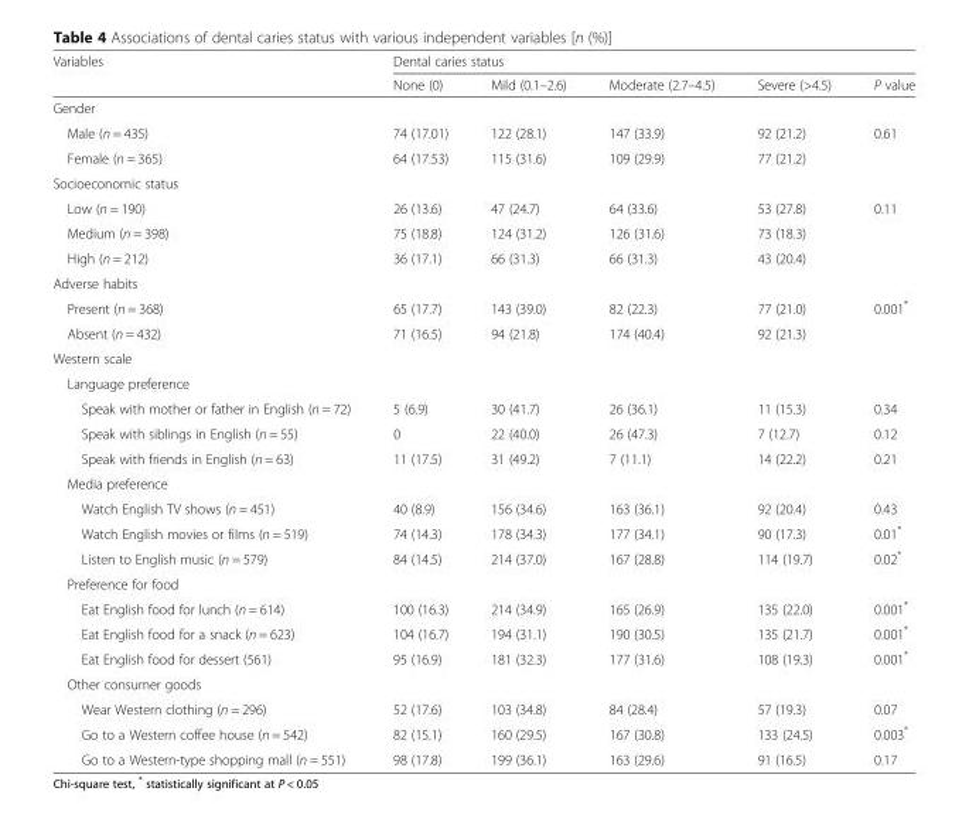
<table><thead><tr><td rowspan="2">Variables</td><td colspan="5">Dental caries status</td></tr><tr><td>None (0)</td><td>Mild (0.1–2.6)</td><td>Moderate (2.7–4.5)</td><td>Severe (&gt;4.5)</td><td>P value</td></tr></thead><tbody><tr><td colspan="6">Gender</td></tr><tr><td>Male (n = 435)</td><td>74 (17.01)</td><td>122 (28.1)</td><td>147 (33.9)</td><td>92 (21.2)</td><td rowspan="2">0.61</td></tr><tr><td>Female (n = 365)</td><td>64 (17.53)</td><td>115 (31.6)</td><td>109 (29.9)</td><td>77 (21.2)</td></tr><tr><td colspan="6">Socioeconomic status</td></tr><tr><td>Low (n = 190)</td><td>26 (13.6)</td><td>47 (24.7)</td><td>64 (33.6)</td><td>53 (27.8)</td><td rowspan="3">0.11</td></tr><tr><td>Medium (n = 398)</td><td>75 (18.8)</td><td>124 (31.2)</td><td>126 (31.6)</td><td>73 (18.3)</td></tr><tr><td>High (n = 212)</td><td>36 (17.1)</td><td>66 (31.3)</td><td>66 (31.3)</td><td>43 (20.4)</td></tr><tr><td colspan="6">Adverse habits</td></tr><tr><td>Present (n = 368)</td><td>65 (17.7)</td><td>143 (39.0)</td><td>82 (22.3)</td><td>77 (21.0)</td><td rowspan="2">0.001*</td></tr><tr><td>Absent (n = 432)</td><td>71 (16.5)</td><td>94 (21.8)</td><td>174 (40.4)</td><td>92 (21.3)</td></tr><tr><td colspan="6">Western scale</td></tr><tr><td colspan="6">Language preference</td></tr><tr><td>Speak with mother or father in English (n = 72)</td><td>5 (6.9)</td><td>30 (41.7)</td><td>26 (36.1)</td><td>11 (15.3)</td><td>0.34</td></tr><tr><td>Speak with siblings in English (n = 55)</td><td>0</td><td>22 (40.0)</td><td>26 (47.3)</td><td>7 (12.7)</td><td>0.12</td></tr><tr><td>Speak with friends in English (n = 63)</td><td>11 (17.5)</td><td>31 (49.2)</td><td>7 (11.1)</td><td>14 (22.2)</td><td>0.21</td></tr><tr><td colspan="6">Media preference</td></tr><tr><td>Watch English TV shows (n = 451)</td><td>40 (8.9)</td><td>156 (34.6)</td><td>163 (36.1)</td><td>92 (20.4)</td><td>0.43</td></tr><tr><td>Watch English movies or films (n = 519)</td><td>74 (14.3)</td><td>178 (34.3)</td><td>177 (34.1)</td><td>90 (17.3)</td><td>0.01*</td></tr><tr><td>Listen to English music (n = 579)</td><td>84 (14.5)</td><td>214 (37.0)</td><td>167 (28.8)</td><td>114 (19.7)</td><td>0.02*</td></tr><tr><td colspan="6">Preference for food</td></tr><tr><td>Eat English food for lunch (n = 614)</td><td>100 (16.3)</td><td>214 (34.9)</td><td>165 (26.9)</td><td>135 (22.0)</td><td>0.001*</td></tr><tr><td>Eat English food for a snack (n = 623)</td><td>104 (16.7)</td><td>194 (31.1)</td><td>190 (30.5)</td><td>135 (21.7)</td><td>0.001*</td></tr><tr><td>Eat English food for dessert (561)</td><td>95 (16.9)</td><td>181 (32.3)</td><td>177 (31.6)</td><td>108 (19.3)</td><td>0.001*</td></tr><tr><td colspan="6">Other consumer goods</td></tr><tr><td>Wear Western clothing (n = 296)</td><td>52 (17.6)</td><td>103 (34.8)</td><td>84 (28.4)</td><td>57 (19.3)</td><td>0.07</td></tr><tr><td>Go to a Western coffee house (n = 542)</td><td>82 (15.1)</td><td>160 (29.5)</td><td>167 (30.8)</td><td>133 (24.5)</td><td>0.003*</td></tr><tr><td>Go to a Western-type shopping mall (n = 551)</td><td>98 (17.8)</td><td>199 (36.1)</td><td>163 (29.6)</td><td>91 (16.5)</td><td>0.17</td></tr></tbody></table>